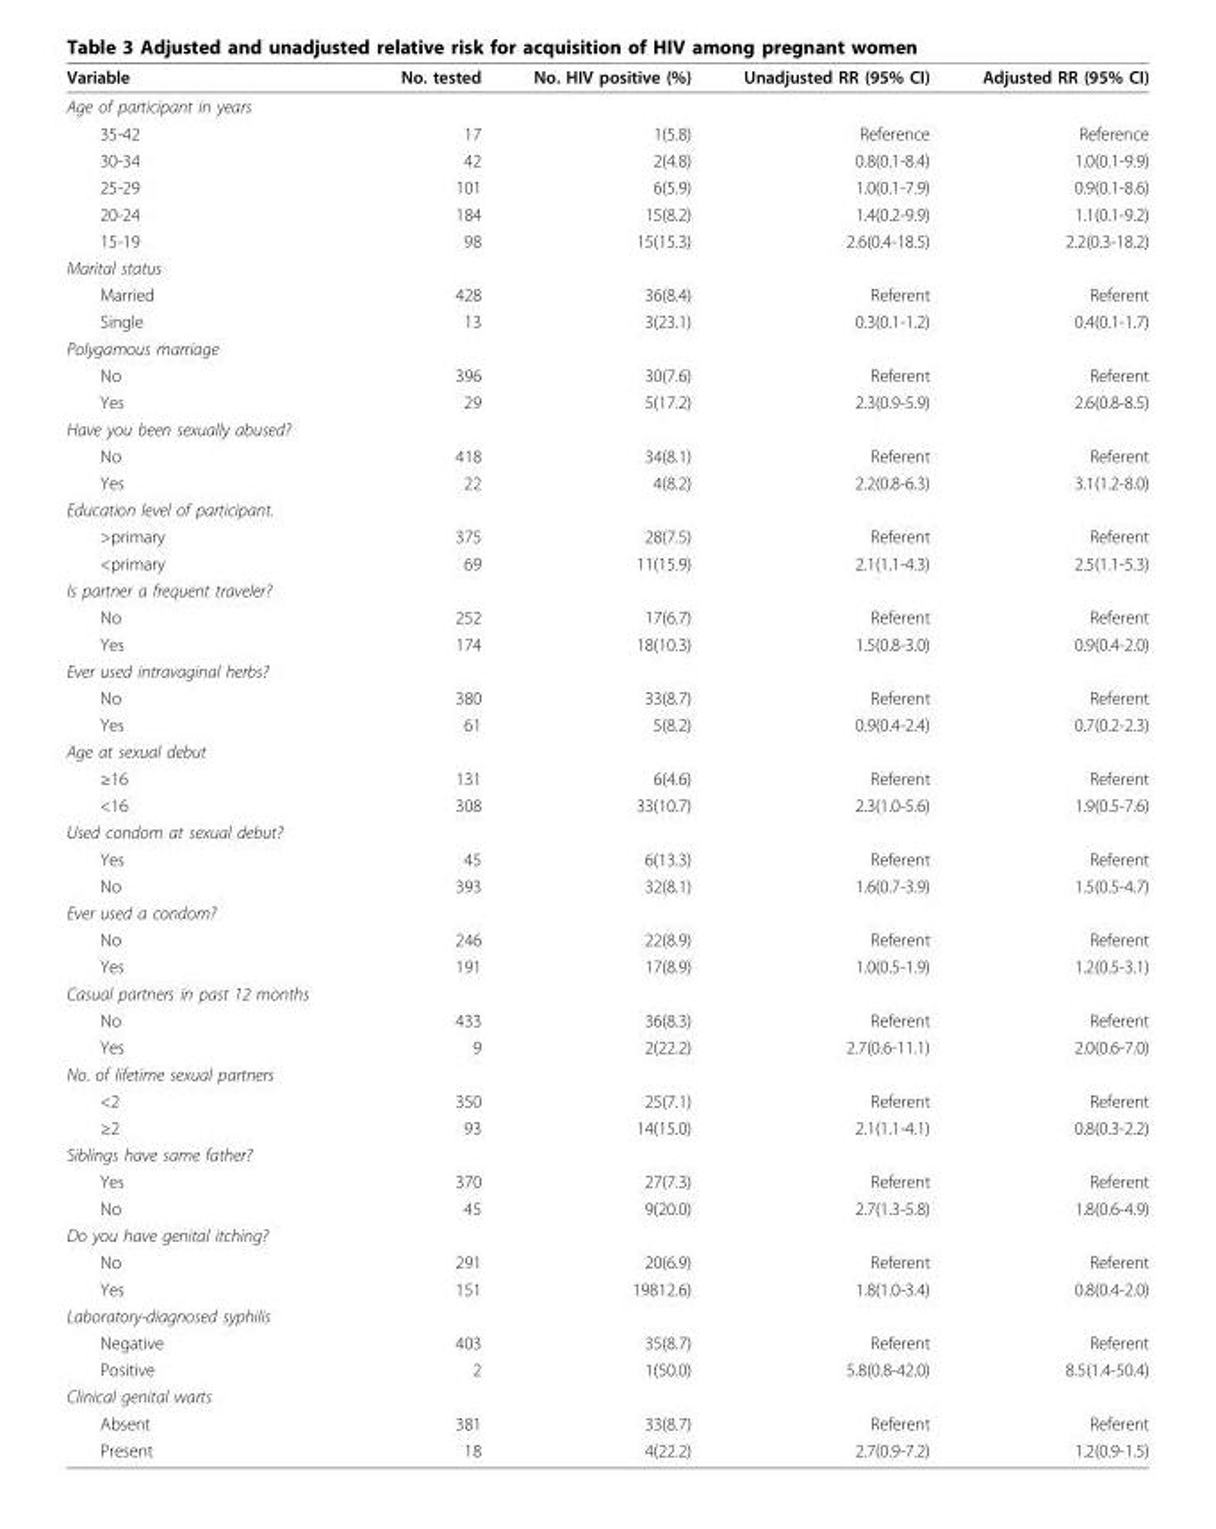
<table><thead><tr><td>Variable</td><td>No. tested</td><td>No. HIV positive (%)</td><td>Unadjusted RR (95% CI)</td><td>Adjusted RR (95% CI)</td></tr></thead><tbody><tr><td colspan="5">Age of participant in years</td></tr><tr><td>35-42</td><td>17</td><td>1(5.8)</td><td>Reference</td><td>Reference</td></tr><tr><td>30-34</td><td>42</td><td>2(4.8)</td><td>0.8(0.1-8.4)</td><td>1.0(0.1-9.9)</td></tr><tr><td>25-29</td><td>101</td><td>6(5.9)</td><td>1.0(0.1-7.9)</td><td>0.9(0.1-8.6)</td></tr><tr><td>20-24</td><td>184</td><td>15(8.2)</td><td>1.4(0.2-9.9)</td><td>1.1(0.1-9.2)</td></tr><tr><td>15-19</td><td>98</td><td>15(15.3)</td><td>2.6(0.4-18.5)</td><td>2.2(0.3-18.2)</td></tr><tr><td colspan="5">Marital status</td></tr><tr><td>Married</td><td>428</td><td>36(8.4)</td><td>Referent</td><td>Referent</td></tr><tr><td>Single</td><td>13</td><td>3(23.1)</td><td>0.3(0.1-1.2)</td><td>0.4(0.1-1.7)</td></tr><tr><td colspan="5">Polygamous marriage</td></tr><tr><td>No</td><td>396</td><td>30(7.6)</td><td>Referent</td><td>Referent</td></tr><tr><td>Yes</td><td>29</td><td>5(17.2)</td><td>2.3(0.9-5.9)</td><td>2.6(0.8-8.5)</td></tr><tr><td colspan="5">Have you been sexually abused?</td></tr><tr><td>No</td><td>418</td><td>34(8.1)</td><td>Referent</td><td>Referent</td></tr><tr><td>Yes</td><td>22</td><td>4(8.2)</td><td>2.2(0.8-6.3)</td><td>3.1(1.2-8.0)</td></tr><tr><td colspan="5">Education level of participant.</td></tr><tr><td>&gt;primary</td><td>375</td><td>28(7.5)</td><td>Referent</td><td>Referent</td></tr><tr><td>&lt;primary</td><td>69</td><td>11(15.9)</td><td>2.1(1.1-4.3)</td><td>2.5(1.1-5.3)</td></tr><tr><td colspan="5">Is partner a frequent traveler?</td></tr><tr><td>No</td><td>252</td><td>17(6.7)</td><td>Referent</td><td>Referent</td></tr><tr><td>Yes</td><td>174</td><td>18(10.3)</td><td>1.5(0.8-3.0)</td><td>0.9(0.4-2.0)</td></tr><tr><td colspan="5">Ever used intravaginal herbs?</td></tr><tr><td>No</td><td>380</td><td>33(8.7)</td><td>Referent</td><td>Referent</td></tr><tr><td>Yes</td><td>61</td><td>5(8.2)</td><td>0.9(0.4-2.4)</td><td>0.7(0.2-2.3)</td></tr><tr><td colspan="5">Age at sexual debut</td></tr><tr><td>≥16</td><td>131</td><td>6(4.6)</td><td>Referent</td><td>Referent</td></tr><tr><td>&lt;16</td><td>308</td><td>33(10.7)</td><td>2.3(1.0-5.6)</td><td>1.9(0.5-7.6)</td></tr><tr><td colspan="5">Used condom at sexual debut?</td></tr><tr><td>Yes</td><td>45</td><td>6(13.3)</td><td>Referent</td><td>Referent</td></tr><tr><td>No</td><td>393</td><td>32(8.1)</td><td>1.6(0.7-3.9)</td><td>1.5(0.5-4.7)</td></tr><tr><td colspan="5">Ever used a condom?</td></tr><tr><td>No</td><td>246</td><td>22(8.9)</td><td>Referent</td><td>Referent</td></tr><tr><td>Yes</td><td>191</td><td>17(8.9)</td><td>1.0(0.5-1.9)</td><td>1.2(0.5-3.1)</td></tr><tr><td colspan="5">Casual partners in past 12 months</td></tr><tr><td>No</td><td>433</td><td>36(8.3)</td><td>Referent</td><td>Referent</td></tr><tr><td>Yes</td><td>9</td><td>2(22.2)</td><td>2.7(0.6-11.1)</td><td>2.0(0.6-7.0)</td></tr><tr><td colspan="5">No. of lifetime sexual partners</td></tr><tr><td>&lt;2</td><td>350</td><td>25(7.1)</td><td>Referent</td><td>Referent</td></tr><tr><td>≥2</td><td>93</td><td>14(15.0)</td><td>2.1(1.1-4.1)</td><td>0.8(0.3-2.2)</td></tr><tr><td colspan="5">Siblings have same father?</td></tr><tr><td>Yes</td><td>370</td><td>27(7.3)</td><td>Referent</td><td>Referent</td></tr><tr><td>No</td><td>45</td><td>9(20.0)</td><td>2.7(1.3-5.8)</td><td>1.8(0.6-4.9)</td></tr><tr><td colspan="5">Do you have genital itching?</td></tr><tr><td>No</td><td>291</td><td>20(6.9)</td><td>Referent</td><td>Referent</td></tr><tr><td>Yes</td><td>151</td><td>19812.6)</td><td>1.8(1.0-3.4)</td><td>0.8(0.4-2.0)</td></tr><tr><td colspan="5">Laboratory-diagnosed syphilis</td></tr><tr><td>Negative</td><td>403</td><td>35(8.7)</td><td>Referent</td><td>Referent</td></tr><tr><td>Positive</td><td>2</td><td>1(50.0)</td><td>5.8(0.8-42.0)</td><td>8.5(1.4-50.4)</td></tr><tr><td colspan="5">Clinical genital warts</td></tr><tr><td>Absent</td><td>381</td><td>33(8.7)</td><td>Referent</td><td>Referent</td></tr><tr><td>Present</td><td>18</td><td>4(22.2)</td><td>2.7(0.9-7.2)</td><td>1.2(0.9-1.5)</td></tr></tbody></table>